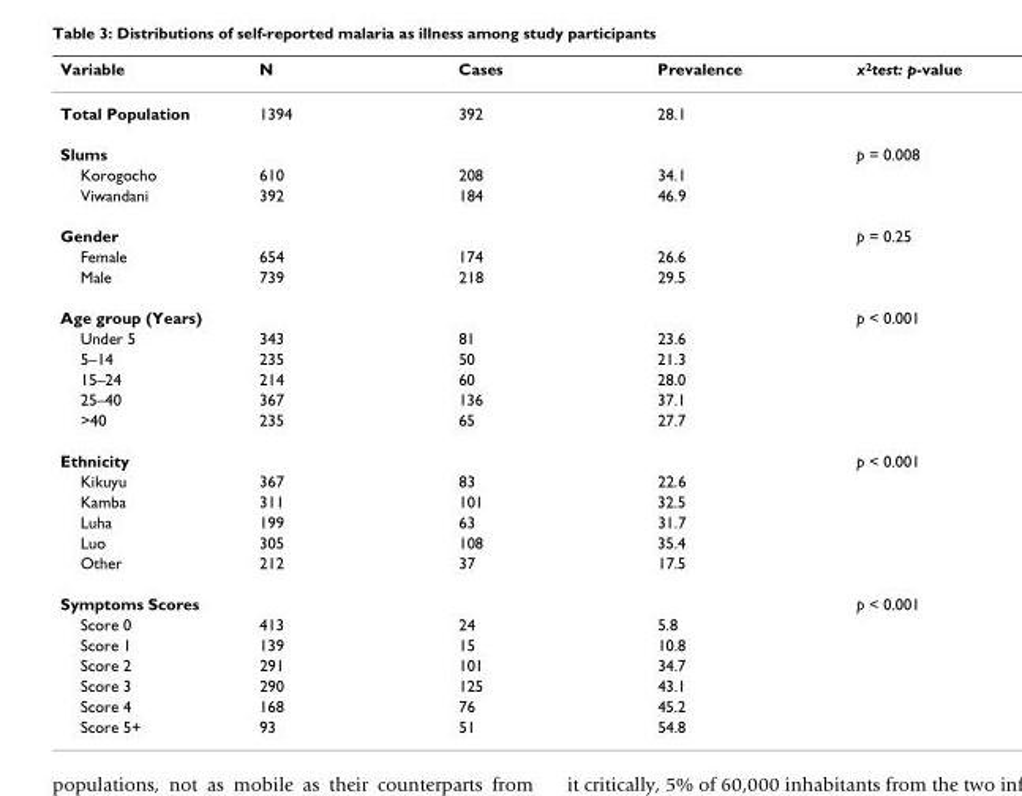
<table><thead><tr><td>Variable</td><td>N</td><td>Cases</td><td>Prevalence</td><td>x<sup>2</sup>test: p-value</td></tr></thead><tbody><tr><td>Total Population</td><td>1394</td><td>392</td><td>28.1</td><td></td></tr><tr><td>Slums</td><td></td><td></td><td></td><td>p = 0.008</td></tr><tr><td>Korogocho</td><td>610</td><td>208</td><td>34.1</td><td></td></tr><tr><td>Viwandani</td><td>392</td><td>184</td><td>46.9</td><td></td></tr><tr><td>Gender</td><td></td><td></td><td></td><td>p = 0.25</td></tr><tr><td>Female</td><td>654</td><td>174</td><td>26.6</td><td></td></tr><tr><td>Male</td><td>739</td><td>218</td><td>29.5</td><td></td></tr><tr><td>Age group (Years)</td><td></td><td></td><td></td><td>p &lt; 0.001</td></tr><tr><td>Under 5</td><td>343</td><td>81</td><td>23.6</td><td></td></tr><tr><td>5–14</td><td>235</td><td>50</td><td>21.3</td><td></td></tr><tr><td>15–24</td><td>214</td><td>60</td><td>28.0</td><td></td></tr><tr><td>25–40</td><td>367</td><td>136</td><td>37.1</td><td></td></tr><tr><td>&gt;40</td><td>235</td><td>65</td><td>27.7</td><td></td></tr><tr><td>Ethnicity</td><td></td><td></td><td></td><td>p &lt; 0.001</td></tr><tr><td>Kikuyu</td><td>367</td><td>83</td><td>22.6</td><td></td></tr><tr><td>Kamba</td><td>311</td><td>101</td><td>32.5</td><td></td></tr><tr><td>Luha</td><td>199</td><td>63</td><td>31.7</td><td></td></tr><tr><td>Luo</td><td>305</td><td>108</td><td>35.4</td><td></td></tr><tr><td>Other</td><td>212</td><td>37</td><td>17.5</td><td></td></tr><tr><td>Symptoms Scores</td><td></td><td></td><td></td><td>p &lt; 0.001</td></tr><tr><td>Score 0</td><td>413</td><td>24</td><td>5.8</td><td></td></tr><tr><td>Score 1</td><td>139</td><td>15</td><td>10.8</td><td></td></tr><tr><td>Score 2</td><td>291</td><td>101</td><td>34.7</td><td></td></tr><tr><td>Score 3</td><td>290</td><td>125</td><td>43.1</td><td></td></tr><tr><td>Score 4</td><td>168</td><td>76</td><td>45.2</td><td></td></tr><tr><td>Score 5+</td><td>93</td><td>51</td><td>54.8</td><td></td></tr></tbody></table>